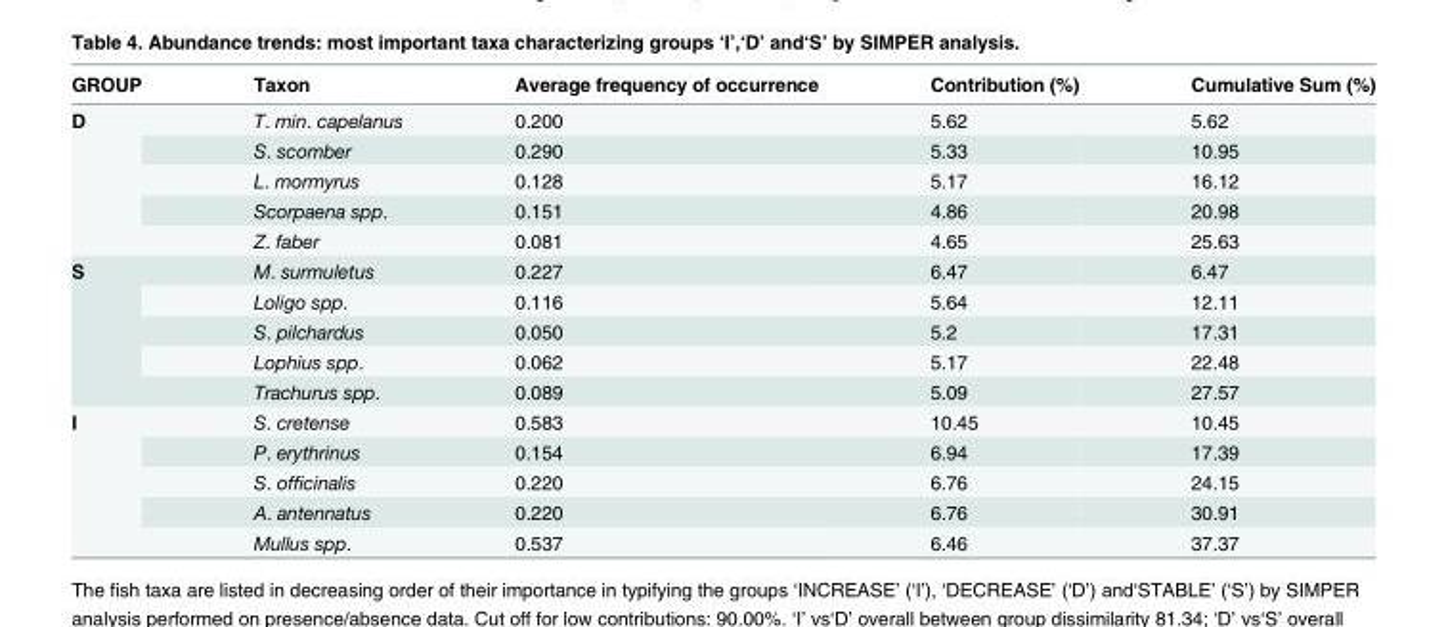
<table><thead><tr><td>GROUP</td><td>Taxon</td><td>Average frequency of occurrence</td><td>Contribution (%)</td><td>Cumulative Sum (%)</td></tr></thead><tbody><tr><td rowspan="5">D</td><td>T. min. capelanus</td><td>0.200</td><td>5.62</td><td>5.62</td></tr><tr><td>S. scomber</td><td>0.290</td><td>5.33</td><td>10.95</td></tr><tr><td>L. mormyrus</td><td>0.128</td><td>5.17</td><td>16.12</td></tr><tr><td>Scorpaena spp.</td><td>0.151</td><td>4.86</td><td>20.98</td></tr><tr><td>Z. faber</td><td>0.081</td><td>4.65</td><td>25.63</td></tr><tr><td rowspan="5">S</td><td>M. surmuletus</td><td>0.227</td><td>6.47</td><td>6.47</td></tr><tr><td>Loligo spp.</td><td>0.116</td><td>5.64</td><td>12.11</td></tr><tr><td>S. pilchardus</td><td>0.050</td><td>5.2</td><td>17.31</td></tr><tr><td>Lophius spp.</td><td>0.062</td><td>5.17</td><td>22.48</td></tr><tr><td>Trachurus spp.</td><td>0.089</td><td>5.09</td><td>27.57</td></tr><tr><td rowspan="5">I</td><td>S. cretense</td><td>0.583</td><td>10.45</td><td>10.45</td></tr><tr><td>P. erythrinus</td><td>0.154</td><td>6.94</td><td>17.39</td></tr><tr><td>S. officinalis</td><td>0.220</td><td>6.76</td><td>24.15</td></tr><tr><td>A. antennatus</td><td>0.220</td><td>6.76</td><td>30.91</td></tr><tr><td>Mullus spp.</td><td>0.537</td><td>6.46</td><td>37.37</td></tr></tbody></table>